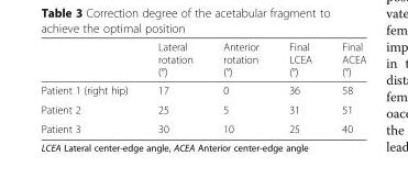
<table><thead><tr><td></td><td>Lateral rotation (°)</td><td>Anterior rotation (°)</td><td>Final LCEA (°)</td><td>Final ACEA (°)</td></tr></thead><tbody><tr><td>Patient 1 (right hip)</td><td>17</td><td>0</td><td>36</td><td>58</td></tr><tr><td>Patient 2</td><td>25</td><td>5</td><td>31</td><td>51</td></tr><tr><td>Patient 3</td><td>30</td><td>10</td><td>25</td><td>40</td></tr></tbody></table>